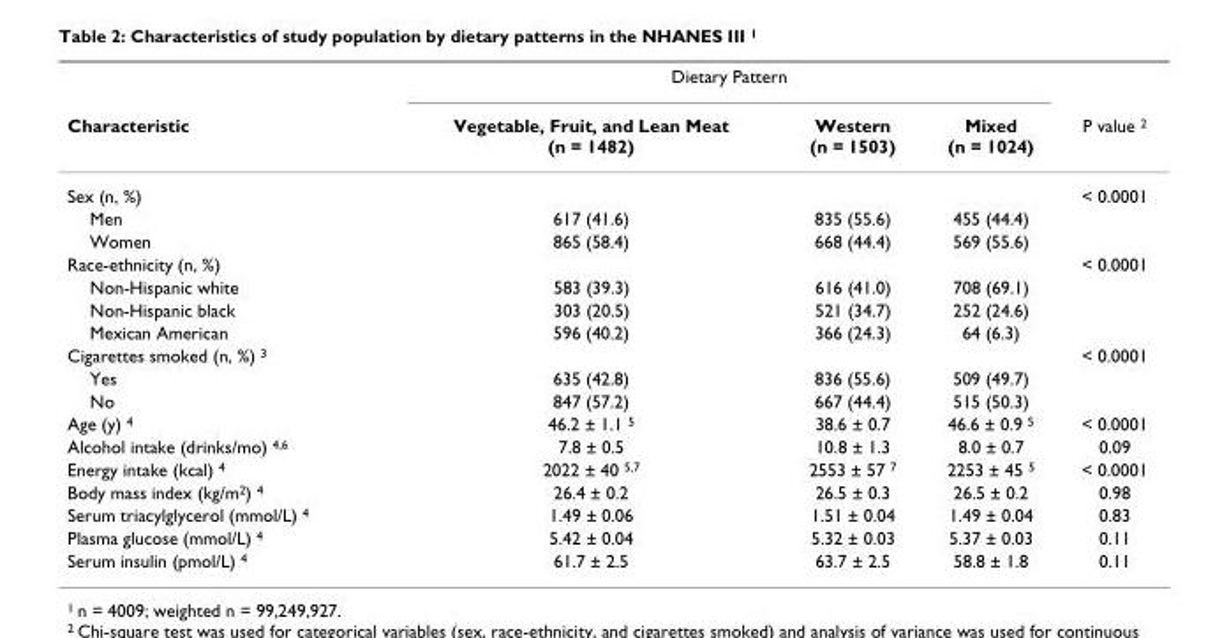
<table><thead><tr><td rowspan="2">Characteristic</td><td colspan="3">Dietary Pattern</td><td rowspan="2">P value <sup>2</sup></td></tr><tr><td>Vegetable, Fruit, and Lean Meat (n = 1482)</td><td>Western (n = 1503)</td><td>Mixed (n = 1024)</td></tr></thead><tbody><tr><td>Sex (n, %)</td><td></td><td></td><td></td><td>&lt; 0.0001</td></tr><tr><td>Men</td><td>617 (41.6)</td><td>835 (55.6)</td><td>455 (44.4)</td><td></td></tr><tr><td>Women</td><td>865 (58.4)</td><td>668 (44.4)</td><td>569 (55.6)</td><td></td></tr><tr><td>Race-ethnicity (n, %)</td><td></td><td></td><td></td><td>&lt; 0.0001</td></tr><tr><td>Non-Hispanic white</td><td>583 (39.3)</td><td>616 (41.0)</td><td>708 (69.1)</td><td></td></tr><tr><td>Non-Hispanic black</td><td>303 (20.5)</td><td>521 (34.7)</td><td>252 (24.6)</td><td></td></tr><tr><td>Mexican American</td><td>596 (40.2)</td><td>366 (24.3)</td><td>64 (6.3)</td><td></td></tr><tr><td>Cigarettes smoked (n, %) <sup>3</sup></td><td></td><td></td><td></td><td>&lt; 0.0001</td></tr><tr><td>Yes</td><td>635 (42.8)</td><td>836 (55.6)</td><td>509 (49.7)</td><td></td></tr><tr><td>No</td><td>847 (57.2)</td><td>667 (44.4)</td><td>515 (50.3)</td><td></td></tr><tr><td>Age (y) <sup>4</sup></td><td>46.2 ± 1.1 <sup>5</sup></td><td>38.6 ± 0.7</td><td>46.6 ± 0.9 <sup>5</sup></td><td>&lt; 0.0001</td></tr><tr><td>Alcohol intake (drinks/mo) <sup>4,6</sup></td><td>7.8 ± 0.5</td><td>10.8 ± 1.3</td><td>8.0 ± 0.7</td><td>0.09</td></tr><tr><td>Energy intake (kcal) <sup>4</sup></td><td>2022 ± 40 <sup>5,7</sup></td><td>2553 ± 57 <sup>7</sup></td><td>2253 ± 45 <sup>5</sup></td><td>&lt; 0.0001</td></tr><tr><td>Body mass index (kg/m<sup>2</sup>) <sup>4</sup></td><td>26.4 ± 0.2</td><td>26.5 ± 0.3</td><td>26.5 ± 0.2</td><td>0.98</td></tr><tr><td>Serum triacylglycerol (mmol/L) <sup>4</sup></td><td>1.49 ± 0.06</td><td>1.51 ± 0.04</td><td>1.49 ± 0.04</td><td>0.83</td></tr><tr><td>Plasma glucose (mmol/L) <sup>4</sup></td><td>5.42 ± 0.04</td><td>5.32 ± 0.03</td><td>5.37 ± 0.03</td><td>0.11</td></tr><tr><td>Serum insulin (pmol/L) <sup>4</sup></td><td>61.7 ± 2.5</td><td>63.7 ± 2.5</td><td>58.8 ± 1.8</td><td>0.11</td></tr></tbody></table>